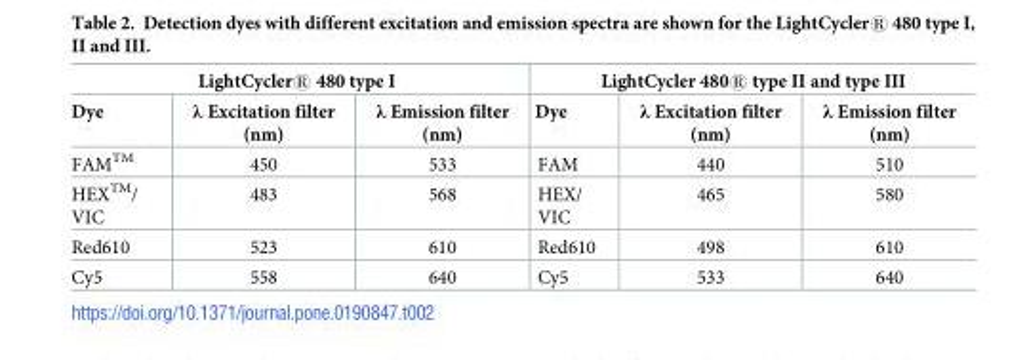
<table><thead><tr><td colspan="3">LightCycler® 480 type I</td><td colspan="3">LightCycler 480® type II and type III</td></tr><tr><td>Dye</td><td>λ Excitation filter (nm)</td><td>λ Emission filter (nm)</td><td>Dye</td><td>λ Excitation filter (nm)</td><td>λ Emission filter (nm)</td></tr></thead><tbody><tr><td>FAM<sup>TM</sup></td><td>450</td><td>533</td><td>FAM</td><td>440</td><td>510</td></tr><tr><td>HEX<sup>TM</sup>/ VIC</td><td>483</td><td>568</td><td>HEX/ VIC</td><td>465</td><td>580</td></tr><tr><td>Red610</td><td>523</td><td>610</td><td>Red610</td><td>498</td><td>610</td></tr><tr><td>Cy5</td><td>558</td><td>640</td><td>Cy5</td><td>533</td><td>640</td></tr></tbody></table>